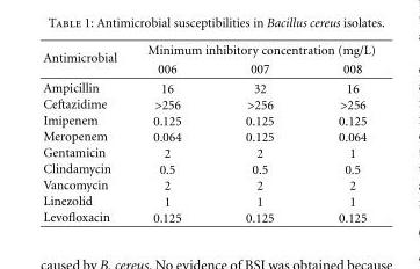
<table><thead><tr><td rowspan="2">Antimicrobial</td><td colspan="3">Minimum inhibitory concentration (mg/L)</td></tr><tr><td>006</td><td>007</td><td>008</td></tr></thead><tbody><tr><td>Ampicillin</td><td>16</td><td>32</td><td>16</td></tr><tr><td>Ceftazidime</td><td>&gt;256</td><td>&gt;256</td><td>&gt;256</td></tr><tr><td>Imipenem</td><td>0.125</td><td>0.125</td><td>0.125</td></tr><tr><td>Meropenem</td><td>0.064</td><td>0.125</td><td>0.064</td></tr><tr><td>Gentamicin</td><td>2</td><td>2</td><td>1</td></tr><tr><td>Clindamycin</td><td>0.5</td><td>0.5</td><td>0.5</td></tr><tr><td>Vancomycin</td><td>2</td><td>2</td><td>2</td></tr><tr><td>Linezolid</td><td>1</td><td>1</td><td>1</td></tr><tr><td>Levofloxacin</td><td>0.125</td><td>0.125</td><td>0.125</td></tr></tbody></table>